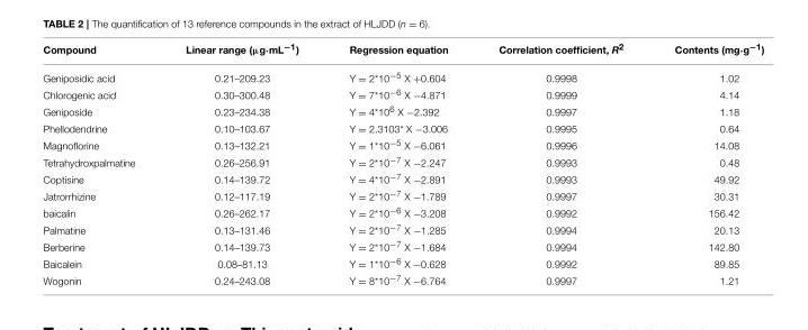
<table><thead><tr><td>Compound</td><td>Linear range (µg·mL<sup>−1</sup>)</td><td>Regression equation</td><td>Correlation coefficient, R<sup>2</sup></td><td>Contents (mg·g<sup>−1</sup>)</td></tr></thead><tbody><tr><td>Geniposidic acid</td><td>0.21–209.23</td><td>Y = 2*10<sup>−5</sup> X +0.604</td><td>0.9998</td><td>1.02</td></tr><tr><td>Chlorogenic acid</td><td>0.30–300.48</td><td>Y = 7*10<sup>−6</sup> X −4.871</td><td>0.9999</td><td>4.14</td></tr><tr><td>Geniposide</td><td>0.23–234.38</td><td>Y = 4*10<sup>6</sup> X −2.392</td><td>0.9997</td><td>1.18</td></tr><tr><td>Phellodendrine</td><td>0.10–103.67</td><td>Y = 2.3103* X −3.006</td><td>0.9995</td><td>0.64</td></tr><tr><td>Magnoflorine</td><td>0.13–132.21</td><td>Y = 1*10<sup>−5</sup> X −6.061</td><td>0.9996</td><td>14.08</td></tr><tr><td>Tetrahydroxpalmatine</td><td>0.26–256.91</td><td>Y = 2*10<sup>−7</sup> X −2.247</td><td>0.9993</td><td>0.48</td></tr><tr><td>Coptisine</td><td>0.14–139.72</td><td>Y = 4*10<sup>−7</sup> X −2.891</td><td>0.9993</td><td>49.92</td></tr><tr><td>Jatrorrhizine</td><td>0.12–117.19</td><td>Y = 2*10<sup>−7</sup> X −1.789</td><td>0.9997</td><td>30.31</td></tr><tr><td>baicalin</td><td>0.26–262.17</td><td>Y = 2*10<sup>−6</sup> X −3.208</td><td>0.9992</td><td>156.42</td></tr><tr><td>Palmatine</td><td>0.13–131.46</td><td>Y = 2*10<sup>−7</sup> X −1.285</td><td>0.9994</td><td>20.13</td></tr><tr><td>Berberine</td><td>0.14–139.73</td><td>Y = 2*10<sup>−7</sup> X −1.684</td><td>0.9994</td><td>142.80</td></tr><tr><td>Baicalein</td><td>0.08–81.13</td><td>Y = 1*10<sup>−6</sup> X −0.628</td><td>0.9992</td><td>89.85</td></tr><tr><td>Wogonin</td><td>0.24–243.08</td><td>Y = 8*10<sup>−7</sup> X −6.764</td><td>0.9997</td><td>1.21</td></tr></tbody></table>